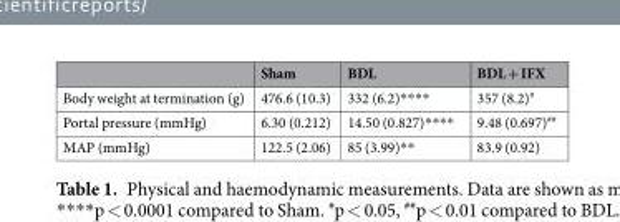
<table><thead><tr><td></td><td>Sham</td><td>BDL</td><td>BDL + IFX</td></tr></thead><tbody><tr><td>Body weight at termination (g)</td><td>476.6 (10.3)</td><td>332 (6.2)****</td><td>357 (8.2)<sup>#</sup></td></tr><tr><td>Portal pressure (mmHg)</td><td>6.30 (0.212)</td><td>14.50 (0.827)****</td><td>9.48 (0.697)<sup>##</sup></td></tr><tr><td>MAP (mmHg)</td><td>122.5 (2.06)</td><td>85 (3.99)**</td><td>83.9 (0.92)</td></tr></tbody></table>